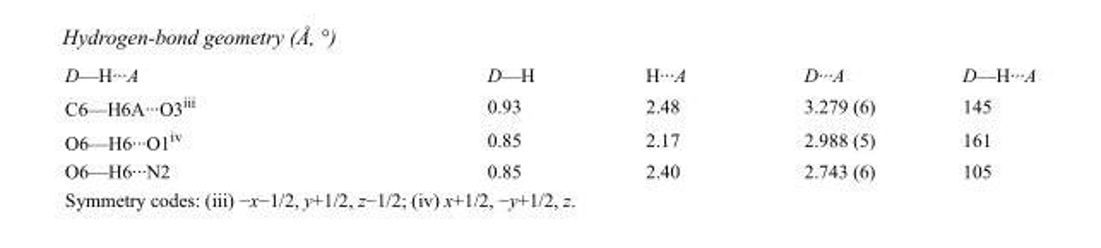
<table><tbody><tr><td>D—H···A</td><td>D—H</td><td>H···A</td><td>D···A</td><td>D—H···A</td></tr><tr><td>C6—H6A···O3<sup>iii</sup></td><td>0.93</td><td>2.48</td><td>3.279 (6)</td><td>145</td></tr><tr><td>O6—H6···O1<sup>iv</sup></td><td>0.85</td><td>2.17</td><td>2.988 (5)</td><td>161</td></tr><tr><td>O6—H6···N2</td><td>0.85</td><td>2.40</td><td>2.743 (6)</td><td>105</td></tr></tbody></table>